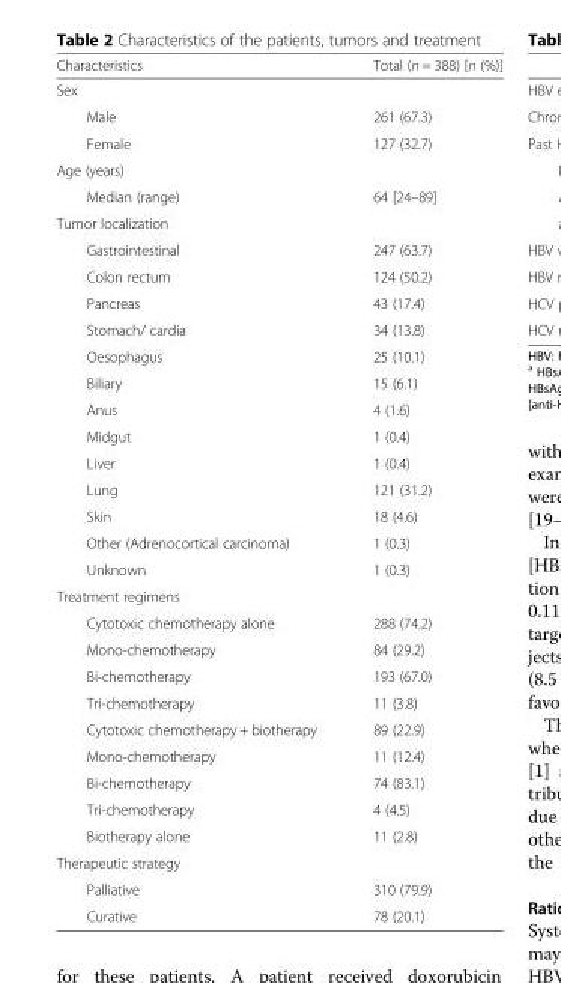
<table><thead><tr><td>Characteristics</td><td>Total (n = 388) [n (%)]</td></tr></thead><tbody><tr><td colspan="2">Sex</td></tr><tr><td>Male</td><td>261 (67.3)</td></tr><tr><td>Female</td><td>127 (32.7)</td></tr><tr><td colspan="2">Age (years)</td></tr><tr><td>Median (range)</td><td>64 [24–89]</td></tr><tr><td colspan="2">Tumor localization</td></tr><tr><td>Gastrointestinal</td><td>247 (63.7)</td></tr><tr><td>Colon rectum</td><td>124 (50.2)</td></tr><tr><td>Pancreas</td><td>43 (17.4)</td></tr><tr><td>Stomach/ cardia</td><td>34 (13.8)</td></tr><tr><td>Oesophagus</td><td>25 (10.1)</td></tr><tr><td>Biliary</td><td>15 (6.1)</td></tr><tr><td>Anus</td><td>4 (1.6)</td></tr><tr><td>Midgut</td><td>1 (0.4)</td></tr><tr><td>Liver</td><td>1 (0.4)</td></tr><tr><td>Lung</td><td>121 (31.2)</td></tr><tr><td>Skin</td><td>18 (4.6)</td></tr><tr><td>Other (Adrenocortical carcinoma)</td><td>1 (0.3)</td></tr><tr><td>Unknown</td><td>1 (0.3)</td></tr><tr><td colspan="2">Treatment regimens</td></tr><tr><td>Cytotoxic chemotherapy alone</td><td>288 (74.2)</td></tr><tr><td>Mono-chemotherapy</td><td>84 (29.2)</td></tr><tr><td>Bi-chemotherapy</td><td>193 (67.0)</td></tr><tr><td>Tri-chemotherapy</td><td>11 (3.8)</td></tr><tr><td>Cytotoxic chemotherapy + biotherapy</td><td>89 (22.9)</td></tr><tr><td>Mono-chemotherapy</td><td>11 (12.4)</td></tr><tr><td>Bi-chemotherapy</td><td>74 (83.1)</td></tr><tr><td>Tri-chemotherapy</td><td>4 (4.5)</td></tr><tr><td>Biotherapy alone</td><td>11 (2.8)</td></tr><tr><td colspan="2">Therapeutic strategy</td></tr><tr><td>Palliative</td><td>310 (79.9)</td></tr><tr><td>Curative</td><td>78 (20.1)</td></tr></tbody></table>